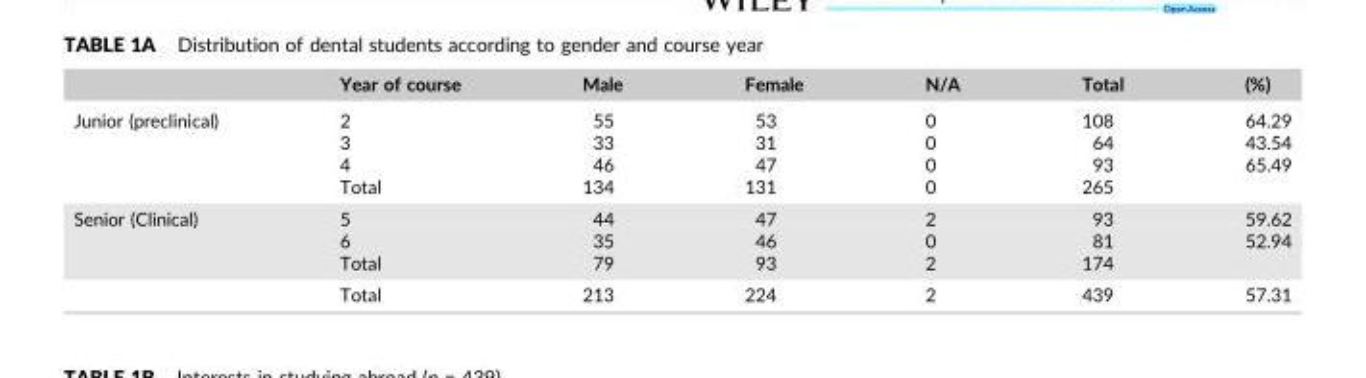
<table><thead><tr><td></td><td>Year of course</td><td>Male</td><td>Female</td><td>N/A</td><td>Total</td><td>(%)</td></tr></thead><tbody><tr><td rowspan="4">Junior (preclinical)</td><td>2</td><td>55</td><td>53</td><td>0</td><td>108</td><td>64.29</td></tr><tr><td>3</td><td>33</td><td>31</td><td>0</td><td>64</td><td>43.54</td></tr><tr><td>4</td><td>46</td><td>47</td><td>0</td><td>93</td><td>65.49</td></tr><tr><td>Total</td><td>134</td><td>131</td><td>0</td><td>265</td><td></td></tr><tr><td rowspan="4">Senior (Clinical)</td><td>5</td><td>44</td><td>47</td><td>2</td><td>93</td><td>59.62</td></tr><tr><td>6</td><td>35</td><td>46</td><td>0</td><td>81</td><td>52.94</td></tr><tr><td>Total</td><td>79</td><td>93</td><td>2</td><td>174</td><td></td></tr><tr><td>Total</td><td>213</td><td>224</td><td>2</td><td>439</td><td>57.31</td></tr></tbody></table>